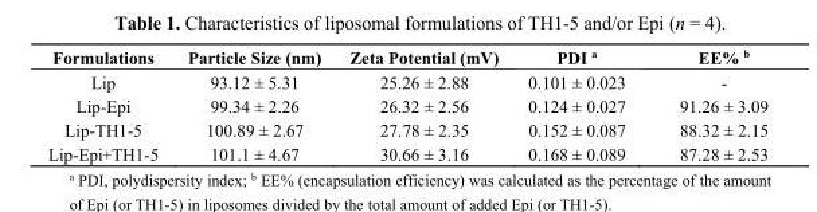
<table><thead><tr><td>Formulations</td><td>Particle Size (nm)</td><td>Zeta Potential (mV)</td><td>PDI <sup>a</sup></td><td>EE% <sup>b</sup></td></tr></thead><tbody><tr><td>Lip</td><td>93.12 ± 5.31</td><td>25.26 ± 2.88</td><td>0.101 ± 0.023</td><td>-</td></tr><tr><td>Lip-Epi</td><td>99.34 ± 2.26</td><td>26.32 ± 2.56</td><td>0.124 ± 0.027</td><td>91.26 ± 3.09</td></tr><tr><td>Lip-TH1-5</td><td>100.89 ± 2.67</td><td>27.78 ± 2.35</td><td>0.152 ± 0.087</td><td>88.32 ± 2.15</td></tr><tr><td>Lip-Epi+TH1-5</td><td>101.1 ± 4.67</td><td>30.66 ± 3.16</td><td>0.168 ± 0.089</td><td>87.28 ± 2.53</td></tr></tbody></table>